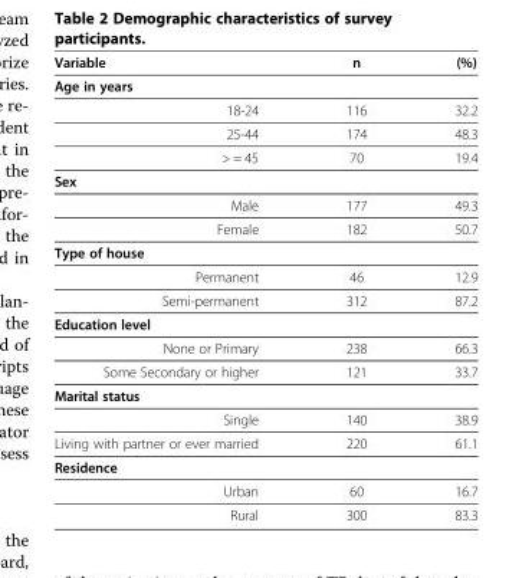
<table><thead><tr><td>Variable</td><td>n</td><td>(%)</td></tr></thead><tbody><tr><td colspan="3">Age in years</td></tr><tr><td>18-24</td><td>116</td><td>32.2</td></tr><tr><td>25-44</td><td>174</td><td>48.3</td></tr><tr><td>&gt; = 45</td><td>70</td><td>19.4</td></tr><tr><td colspan="3">Sex</td></tr><tr><td>Male</td><td>177</td><td>49.3</td></tr><tr><td>Female</td><td>182</td><td>50.7</td></tr><tr><td colspan="3">Type of house</td></tr><tr><td>Permanent</td><td>46</td><td>12.9</td></tr><tr><td>Semi-permanent</td><td>312</td><td>87.2</td></tr><tr><td colspan="3">Education level</td></tr><tr><td>None or Primary</td><td>238</td><td>66.3</td></tr><tr><td>Some Secondary or higher</td><td>121</td><td>33.7</td></tr><tr><td colspan="3">Marital status</td></tr><tr><td>Single</td><td>140</td><td>38.9</td></tr><tr><td>Living with partner or ever married</td><td>220</td><td>61.1</td></tr><tr><td colspan="3">Residence</td></tr><tr><td>Urban</td><td>60</td><td>16.7</td></tr><tr><td>Rural</td><td>300</td><td>83.3</td></tr></tbody></table>